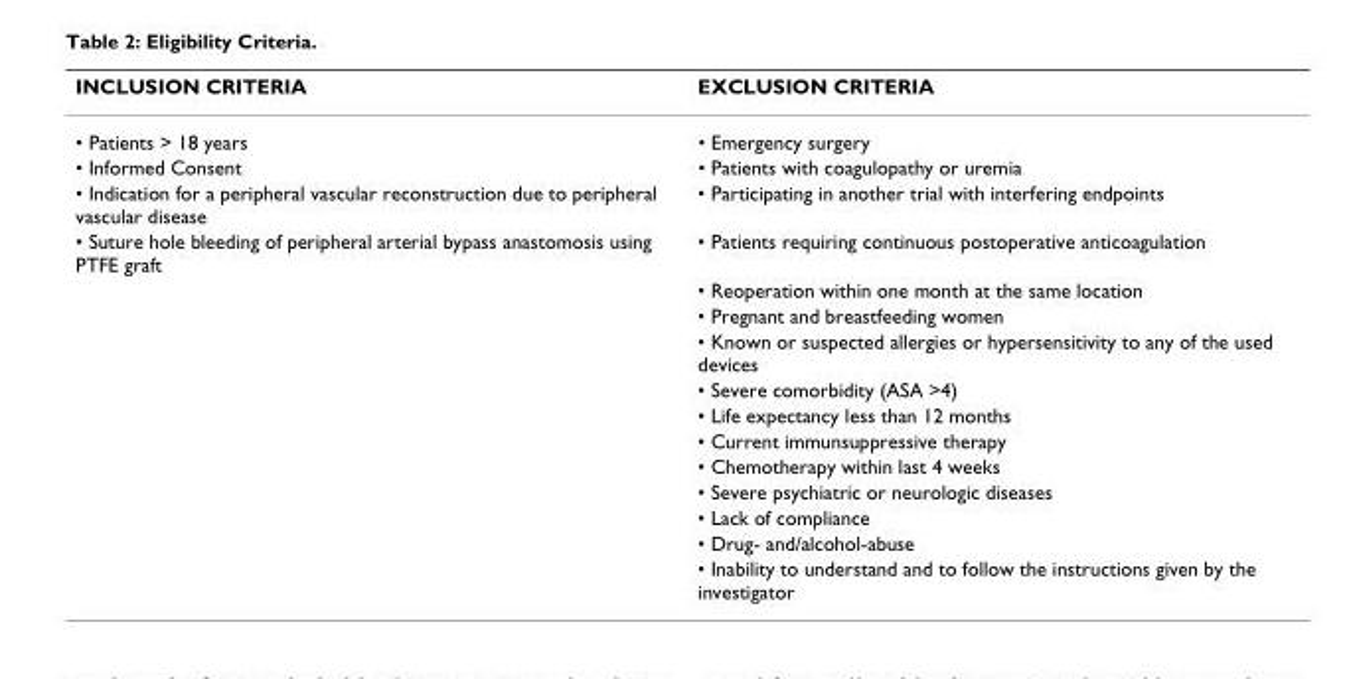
<table><thead><tr><td>INCLUSION CRITERIA</td><td>EXCLUSION CRITERIA</td></tr></thead><tbody><tr><td>• Patients &gt; 18 years</td><td>• Emergency surgery</td></tr><tr><td>• Informed Consent</td><td>• Patients with coagulopathy or uremia</td></tr><tr><td>• Indication for a peripheral vascular reconstruction due to peripheral vascular disease</td><td>• Participating in another trial with interfering endpoints</td></tr><tr><td rowspan="12">• Suture hole bleeding of peripheral arterial bypass anastomosis using PTFE graft</td><td>• Patients requiring continuous postoperative anticoagulation</td></tr><tr><td>• Reoperation within one month at the same location</td></tr><tr><td>• Pregnant and breastfeeding women</td></tr><tr><td>• Known or suspected allergies or hypersensitivity to any of the used devices</td></tr><tr><td>• Severe comorbidity (ASA &gt;4)</td></tr><tr><td>• Life expectancy less than 12 months</td></tr><tr><td>• Current immunsuppressive therapy</td></tr><tr><td>• Chemotherapy within last 4 weeks</td></tr><tr><td>• Severe psychiatric or neurologic diseases</td></tr><tr><td>• Lack of compliance</td></tr><tr><td>• Drug- and/alcohol-abuse</td></tr><tr><td>• Inability to understand and to follow the instructions given by the investigator</td></tr></tbody></table>